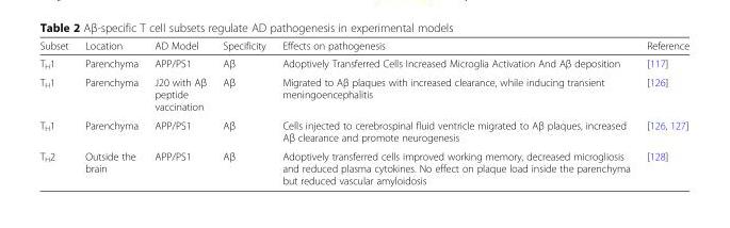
<table><thead><tr><td>Subset</td><td>Location</td><td>AD Model</td><td>Specificity</td><td>Effects on pathogenesis</td><td>Reference</td></tr></thead><tbody><tr><td>T<sub>H</sub>1</td><td>Parenchyma</td><td>APP/PS1</td><td>Aβ</td><td>Adoptively Transferred Cells Increased Microglia Activation And Aβ deposition</td><td>[117]</td></tr><tr><td>T<sub>H</sub>1</td><td>Parenchyma</td><td>J20 with Aβ peptide vaccination</td><td>Aβ</td><td>Migrated to Aβ plaques with increased clearance, while inducing transient meningoencephalitis</td><td>[126]</td></tr><tr><td>T<sub>H</sub>1</td><td>Parenchyma</td><td>APP/PS1</td><td>Aβ</td><td>Cells injected to cerebrospinal fluid ventricle migrated to Aβ plaques, increased Aβ clearance and promote neurogenesis</td><td>[126, 127]</td></tr><tr><td>T<sub>H</sub>2</td><td>Outside the brain</td><td>APP/PS1</td><td>Aβ</td><td>Adoptively transferred cells improved working memory, decreased microgliosis and reduced plasma cytokines. No effect on plaque load inside the parenchyma but reduced vascular amyloidosis</td><td>[128]</td></tr></tbody></table>